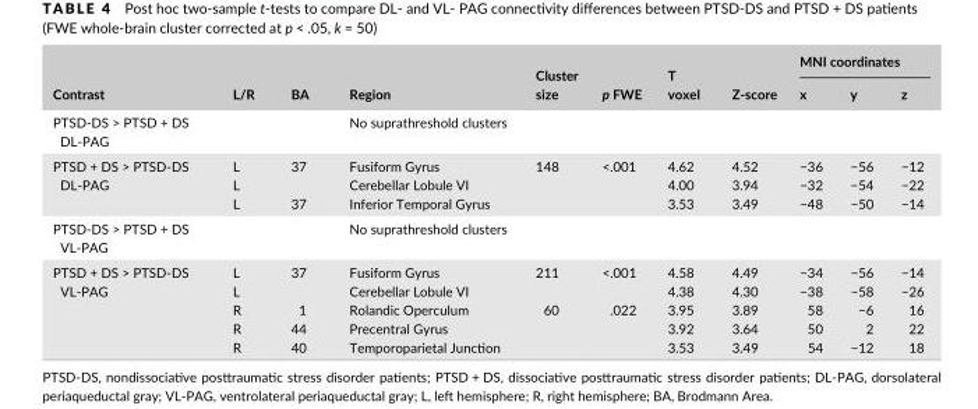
<table><thead><tr><td rowspan="2">Contrast</td><td rowspan="2">L/R</td><td rowspan="2">BA</td><td rowspan="2">Region</td><td rowspan="2">Cluster size</td><td rowspan="2">p FWE</td><td rowspan="2">T voxel</td><td rowspan="2">Z- score</td><td colspan="3">MNI coordinates</td></tr><tr><td>x</td><td>y</td><td>z</td></tr></thead><tbody><tr><td>PTSD- DS &gt; PTSD + DS DL- PAG</td><td></td><td></td><td>No suprathreshold clusters</td><td></td><td></td><td></td><td></td><td></td><td></td><td></td></tr><tr><td rowspan="3">PTSD + DS &gt; PTSD- DS DL- PAG</td><td>L</td><td>37</td><td>Fusiform Gyrus</td><td>148</td><td>&lt;.001</td><td>4.62</td><td>4.52</td><td>−36</td><td>−56</td><td>−12</td></tr><tr><td>L</td><td></td><td>Cerebellar Lobule VI</td><td></td><td></td><td>4.00</td><td>3.94</td><td>−32</td><td>−54</td><td>−22</td></tr><tr><td>L</td><td>37</td><td>Inferior Temporal Gyrus</td><td></td><td></td><td>3.53</td><td>3.49</td><td>−48</td><td>−50</td><td>−14</td></tr><tr><td>PTSD- DS &gt; PTSD + DS VL- PAG</td><td></td><td></td><td>No suprathreshold clusters</td><td></td><td></td><td></td><td></td><td></td><td></td><td></td></tr><tr><td rowspan="5">PTSD + DS &gt; PTSD- DS VL- PAG</td><td>L</td><td>37</td><td>Fusiform Gyrus</td><td>211</td><td>&lt;.001</td><td>4.58</td><td>4.49</td><td>−34</td><td>−56</td><td>−14</td></tr><tr><td>L</td><td></td><td>Cerebellar Lobule VI</td><td></td><td></td><td>4.38</td><td>4.30</td><td>−38</td><td>−58</td><td>−26</td></tr><tr><td>R</td><td>1</td><td>Rolandic Operculum</td><td>60</td><td>.022</td><td>3.95</td><td>3.89</td><td>58</td><td>−6</td><td>16</td></tr><tr><td>R</td><td>44</td><td>Precentral Gyrus</td><td></td><td></td><td>3.92</td><td>3.64</td><td>50</td><td>2</td><td>22</td></tr><tr><td>R</td><td>40</td><td>Temporoparietal Junction</td><td></td><td></td><td>3.53</td><td>3.49</td><td>54</td><td>−12</td><td>18</td></tr></tbody></table>